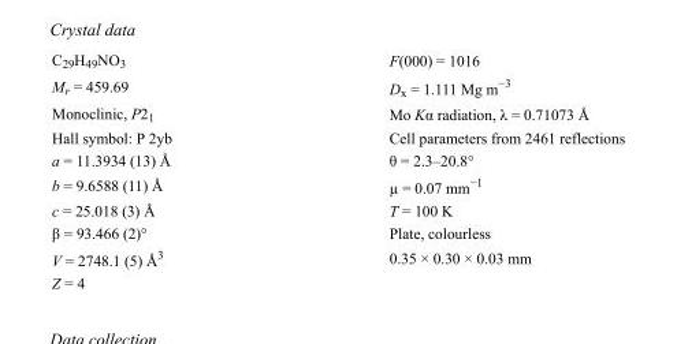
<table><tbody><tr><td>C<sub>29</sub>H<sub>49</sub>NO<sub>3</sub></td><td>F(000) = 1016</td></tr><tr><td>M<sub>r</sub> = 459.69</td><td>D<sub>x</sub> = 1.111 Mg m<sup>−3</sup></td></tr><tr><td>Monoclinic, P2<sub>1</sub></td><td>Mo Kα radiation, λ = 0.71073 Å</td></tr><tr><td>Hall symbol: P 2yb</td><td>Cell parameters from 2461 reflections</td></tr><tr><td>a = 11.3934 (13) Å</td><td>θ = 2.3–20.8°</td></tr><tr><td>b = 9.6588 (11) Å</td><td>µ = 0.07 mm<sup>−1</sup></td></tr><tr><td>c = 25.018 (3) Å</td><td>T = 100 K</td></tr><tr><td>β = 93.466 (2)°</td><td>Plate, colourless</td></tr><tr><td>V = 2748.1 (5) Å<sup>3</sup></td><td>0.35 × 0.30 × 0.03 mm</td></tr><tr><td>Z = 4</td><td></td></tr></tbody></table>